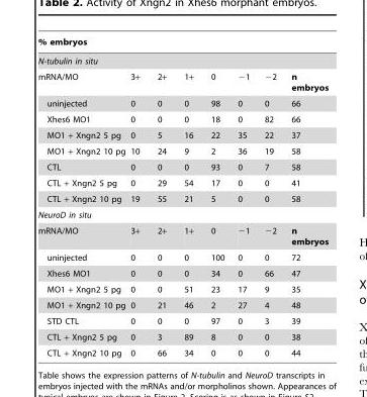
<table><thead><tr><td rowspan="2" colspan="8">% embryos N-tubulin in situ</td></tr><tr></tr><tr><td>mRNA/MO</td><td>3+</td><td>2+</td><td>1+</td><td>0</td><td>−1</td><td>−2</td><td>n embryos</td></tr></thead><tbody><tr><td>uninjected</td><td>0</td><td>0</td><td>0</td><td>98</td><td>0</td><td>0</td><td>66</td></tr><tr><td>Xhes6 MO1</td><td>0</td><td>0</td><td>0</td><td>18</td><td>0</td><td>82</td><td>66</td></tr><tr><td>MO1 + Xngn2 5 pg</td><td>0</td><td>5</td><td>16</td><td>22</td><td>35</td><td>22</td><td>37</td></tr><tr><td>MO1 + Xngn2 10 pg</td><td>10</td><td>24</td><td>9</td><td>2</td><td>36</td><td>19</td><td>58</td></tr><tr><td>CTL</td><td>0</td><td>0</td><td>0</td><td>93</td><td>0</td><td>7</td><td>58</td></tr><tr><td>CTL + Xngn2 5 pg</td><td>0</td><td>29</td><td>54</td><td>17</td><td>0</td><td>0</td><td>41</td></tr><tr><td>CTL + Xngn2 10 pg</td><td>19</td><td>55</td><td>21</td><td>5</td><td>0</td><td>0</td><td>58</td></tr><tr><td colspan="8">NeuroD in situ</td></tr><tr><td>mRNA/MO</td><td>3+</td><td>2+</td><td>1+</td><td>0</td><td>−1</td><td>−2</td><td>n embryos</td></tr><tr><td>uninjected</td><td>0</td><td>0</td><td>0</td><td>100</td><td>0</td><td>0</td><td>72</td></tr><tr><td>Xhes6 MO1</td><td>0</td><td>0</td><td>0</td><td>34</td><td>0</td><td>66</td><td>47</td></tr><tr><td>MO1 + Xngn2 5 pg</td><td>0</td><td>0</td><td>51</td><td>23</td><td>17</td><td>9</td><td>35</td></tr><tr><td>MO1 + Xngn2 10 pg</td><td>0</td><td>21</td><td>46</td><td>2</td><td>27</td><td>4</td><td>48</td></tr><tr><td>STD CTL</td><td>0</td><td>0</td><td>0</td><td>97</td><td>0</td><td>3</td><td>39</td></tr><tr><td>CTL + Xngn2 5 pg</td><td>0</td><td>3</td><td>89</td><td>8</td><td>0</td><td>0</td><td>38</td></tr><tr><td>CTL + Xngn2 10 pg</td><td>0</td><td>66</td><td>34</td><td>0</td><td>0</td><td>0</td><td>44</td></tr></tbody></table>